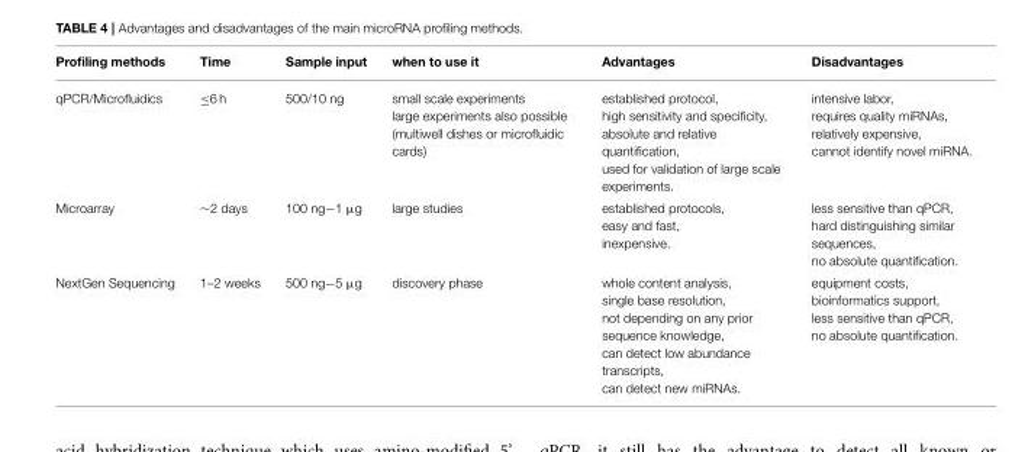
<table><thead><tr><td>Profiling methods</td><td>Time</td><td>Sample input</td><td>when to use it</td><td>Advantages</td><td>Disadvantages</td></tr></thead><tbody><tr><td>qPCR/Microfluidics</td><td>≤6 h</td><td>500/10 ng</td><td>small scale experiments large experiments also possible (multiwell dishes or microfluidic cards)</td><td>established protocol, high sensitivity and specificity, absolute and relative quantification, used for validation of large scale experiments.</td><td>intensive labor, requires quality miRNAs, relatively expensive, cannot identify novel miRNA.</td></tr><tr><td>Microarray</td><td>∼2 days</td><td>100 ng−1 µg</td><td>large studies</td><td>established protocols, easy and fast, inexpensive.</td><td>less sensitive than qPCR, hard distinguishing similar sequences, no absolute quantification.</td></tr><tr><td>NextGen Sequencing</td><td>1–2 weeks</td><td>500 ng−5 µg</td><td>discovery phase</td><td>whole content analysis, single base resolution, not depending on any prior sequence knowledge, can detect low abundance transcripts, can detect new miRNAs.</td><td>equipment costs, bioinformatics support, less sensitive than qPCR, no absolute quantification.</td></tr></tbody></table>